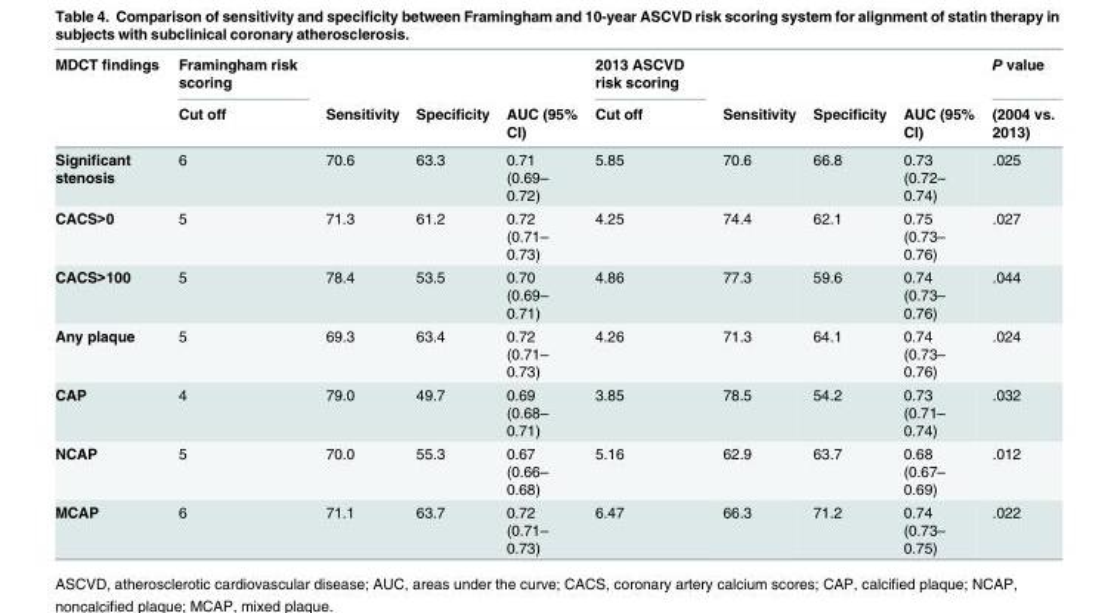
<table><thead><tr><td rowspan="2">MDCT findings</td><td rowspan="2">Framingham risk scoring Cut off</td><td rowspan="2">Sensitivity</td><td rowspan="2">Specificity</td><td rowspan="2">AUC (95% CI)</td><td rowspan="2">2013 ASCVD risk scoring Cut off</td><td rowspan="2">Sensitivity</td><td rowspan="2">Specificity</td><td rowspan="2">AUC (95% CI)</td><td rowspan="2">P value (2004 vs. 2013)</td></tr><tr></tr></thead><tbody><tr><td>Significant stenosis</td><td>6</td><td>70.6</td><td>63.3</td><td>0.71 (0.69– 0.72)</td><td>5.85</td><td>70.6</td><td>66.8</td><td>0.73 (0.72– 0.74)</td><td>.025</td></tr><tr><td>CACS&gt;0</td><td>5</td><td>71.3</td><td>61.2</td><td>0.72 (0.71– 0.73)</td><td>4.25</td><td>74.4</td><td>62.1</td><td>0.75 (0.73– 0.76)</td><td>.027</td></tr><tr><td>CACS&gt;100</td><td>5</td><td>78.4</td><td>53.5</td><td>0.70 (0.69– 0.71)</td><td>4.86</td><td>77.3</td><td>59.6</td><td>0.74 (0.73– 0.76)</td><td>.044</td></tr><tr><td>Any plaque</td><td>5</td><td>69.3</td><td>63.4</td><td>0.72 (0.71– 0.73)</td><td>4.26</td><td>71.3</td><td>64.1</td><td>0.74 (0.73– 0.76)</td><td>.024</td></tr><tr><td>CAP</td><td>4</td><td>79.0</td><td>49.7</td><td>0.69 (0.68– 0.71)</td><td>3.85</td><td>78.5</td><td>54.2</td><td>0.73 (0.71– 0.74)</td><td>.032</td></tr><tr><td>NCAP</td><td>5</td><td>70.0</td><td>55.3</td><td>0.67 (0.66– 0.68)</td><td>5.16</td><td>62.9</td><td>63.7</td><td>0.68 (0.67– 0.69)</td><td>.012</td></tr><tr><td>MCAP</td><td>6</td><td>71.1</td><td>63.7</td><td>0.72 (0.71– 0.73)</td><td>6.47</td><td>66.3</td><td>71.2</td><td>0.74 (0.73– 0.75)</td><td>.022</td></tr></tbody></table>